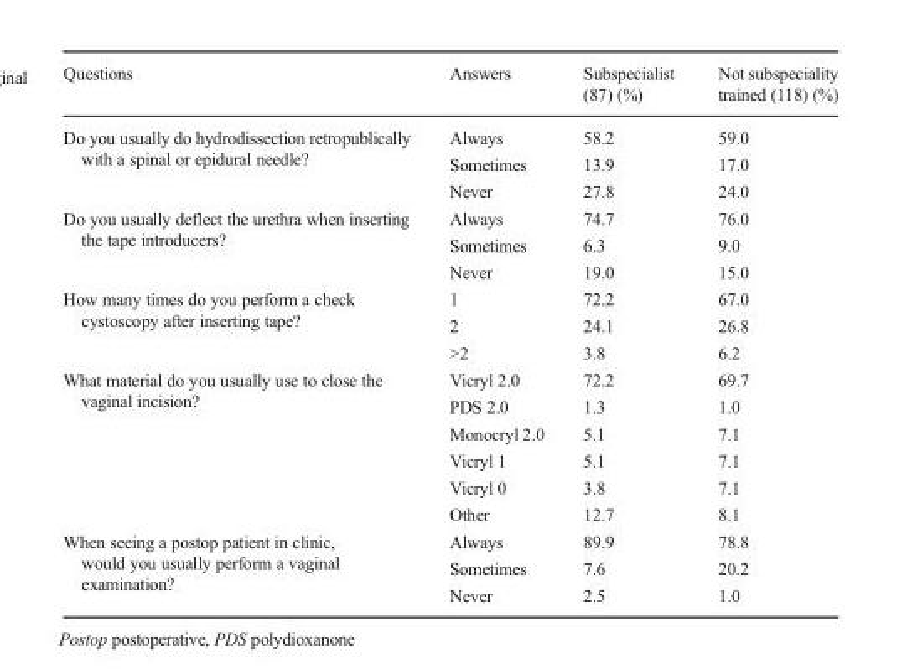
<table><thead><tr><td>Questions</td><td>Answers</td><td>Subspecialist (87) (%)</td><td>Not subspeciality trained (118) (%)</td></tr></thead><tbody><tr><td rowspan="3">Do you usually do hydrodissection retropublically with a spinal or epidural needle?</td><td>Always</td><td>58.2</td><td>59.0</td></tr><tr><td>Sometimes</td><td>13.9</td><td>17.0</td></tr><tr><td>Never</td><td>27.8</td><td>24.0</td></tr><tr><td rowspan="3">Do you usually deflect the urethra when inserting the tape introducers?</td><td>Always</td><td>74.7</td><td>76.0</td></tr><tr><td>Sometimes</td><td>6.3</td><td>9.0</td></tr><tr><td>Never</td><td>19.0</td><td>15.0</td></tr><tr><td rowspan="3">How many times do you perform a check cystoscopy after inserting tape?</td><td>1</td><td>72.2</td><td>67.0</td></tr><tr><td>2</td><td>24.1</td><td>26.8</td></tr><tr><td>&gt;2</td><td>3.8</td><td>6.2</td></tr><tr><td rowspan="6">What material do you usually use to close the vaginal incision?</td><td>Vicryl 2.0</td><td>72.2</td><td>69.7</td></tr><tr><td>PDS 2.0</td><td>1.3</td><td>1.0</td></tr><tr><td>Monocryl 2.0</td><td>5.1</td><td>7.1</td></tr><tr><td>Vicryl 1</td><td>5.1</td><td>7.1</td></tr><tr><td>Vicryl 0</td><td>3.8</td><td>7.1</td></tr><tr><td>Other</td><td>12.7</td><td>8.1</td></tr><tr><td rowspan="3">When seeing a postop patient in clinic, would you usually perform a vaginal examination?</td><td>Always</td><td>89.9</td><td>78.8</td></tr><tr><td>Sometimes</td><td>7.6</td><td>20.2</td></tr><tr><td>Never</td><td>2.5</td><td>1.0</td></tr></tbody></table>